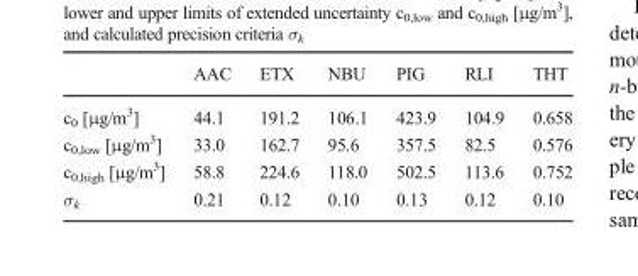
<table><thead><tr><td></td><td>AAC</td><td>ETX</td><td>NBU</td><td>PIG</td><td>RLI</td><td>THT</td></tr></thead><tbody><tr><td>c<sub>0</sub> [μg/m<sup>3</sup>]</td><td>44.1</td><td>191.2</td><td>106.1</td><td>423.9</td><td>104.9</td><td>0.658</td></tr><tr><td>c<sub>0,low</sub> [μg/m<sup>3</sup>]</td><td>33.0</td><td>162.7</td><td>95.6</td><td>357.5</td><td>82.5</td><td>0.576</td></tr><tr><td>c<sub>0,high</sub> [μg/m<sup>3</sup>]</td><td>58.8</td><td>224.6</td><td>118.0</td><td>502.5</td><td>113.6</td><td>0.752</td></tr><tr><td>σ<sub>k</sub></td><td>0.21</td><td>0.12</td><td>0.10</td><td>0.13</td><td>0.12</td><td>0.10</td></tr></tbody></table>